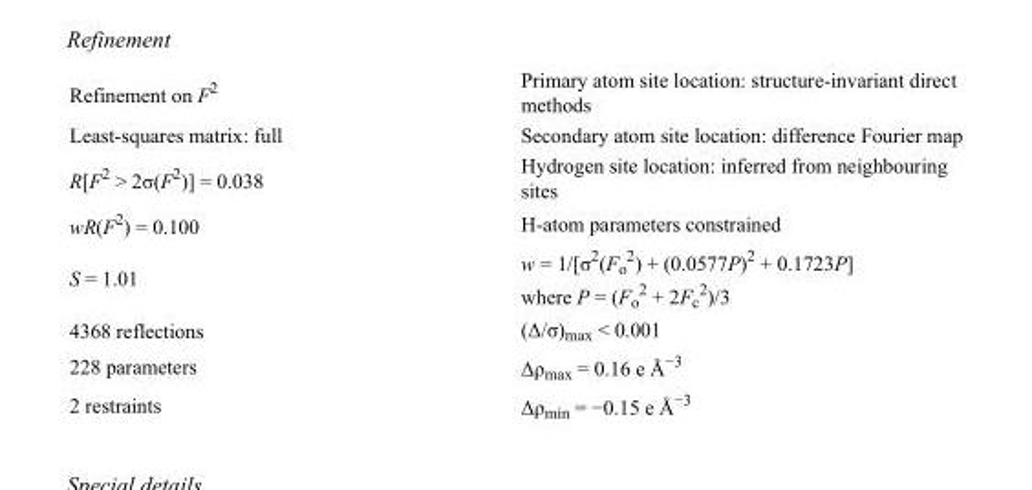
<table><tbody><tr><td>Refinement on F<sup>2</sup></td><td>Primary atom site location: structure-invariant direct methods</td></tr><tr><td>Least-squares matrix: full</td><td>Secondary atom site location: difference Fourier map</td></tr><tr><td>R[F<sup>2</sup> &gt; 2σ(F<sup>2</sup>)] = 0.038</td><td>Hydrogen site location: inferred from neighbouring sites</td></tr><tr><td>wR(F<sup>2</sup>) = 0.100</td><td>H-atom parameters constrained</td></tr><tr><td>S = 1.01</td><td>w = 1/[σ<sup>2</sup>(F<sub>o</sub> <sup>2</sup>) + (0.0577P)<sup>2</sup> + 0.1723P] where P = (F<sub>o</sub> <sup>2</sup> + 2F<sub>c</sub> <sup>2</sup>)/3</td></tr><tr><td>4368 reflections</td><td>(Δ/σ)<sub>max</sub> &lt; 0.001</td></tr><tr><td>228 parameters</td><td>Δρ<sub>max</sub> = 0.16 e Å<sup>−3</sup></td></tr><tr><td>2 restraints</td><td>Δρ<sub>min</sub> = −0.15 e Å<sup>−3</sup></td></tr></tbody></table>